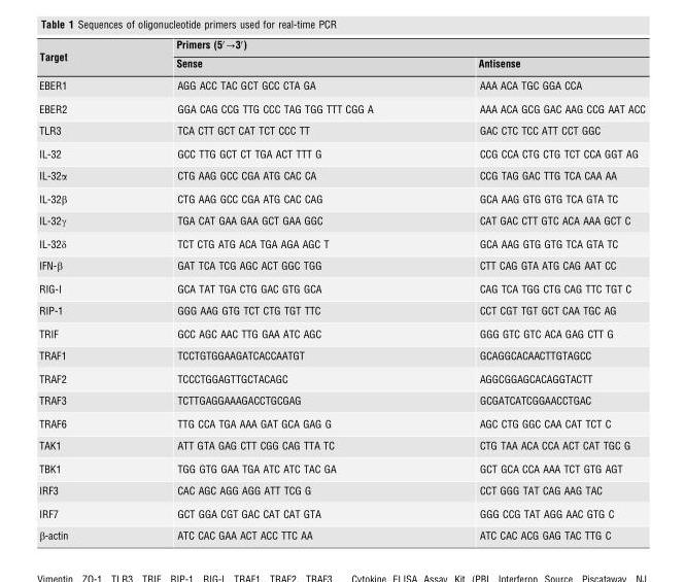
<table><thead><tr><td rowspan="2">Target</td><td colspan="2">Primers (5′→3′)</td></tr><tr><td>Sense</td><td>Antisense</td></tr></thead><tbody><tr><td>EBER1</td><td>AGG ACC TAC GCT GCC CTA GA</td><td>AAA ACA TGC GGA CCA</td></tr><tr><td>EBER2</td><td>GGA CAG CCG TTG CCC TAG TGG TTT CGG A</td><td>AAA ACA GCG GAC AAG CCG AAT ACC</td></tr><tr><td>TLR3</td><td>TCA CTT GCT CAT TCT CCC TT</td><td>GAC CTC TCC ATT CCT GGC</td></tr><tr><td>IL-32</td><td>GCC TTG GCT CT TGA ACT TTT G</td><td>CCG CCA CTG CTG TCT CCA GGT AG</td></tr><tr><td>IL-32α</td><td>CTG AAG GCC CGA ATG CAC CA</td><td>CCG TAG GAC TTG TCA CAA AA</td></tr><tr><td>IL-32β</td><td>CTG AAG GCC CGA ATG CAC CAG</td><td>GCA AAG GTG GTG TCA GTA TC</td></tr><tr><td>IL-32γ</td><td>TGA CAT GAA GAA GCT GAA GGC</td><td>CAT GAC CTT GTC ACA AAA GCT C</td></tr><tr><td>IL-32δ</td><td>TCT CTG ATG ACA TGA AGA AGC T</td><td>GCA AAG GTG GTG TCA GTA TC</td></tr><tr><td>IFN-β</td><td>GAT TCA TCG AGC ACT GGC TGG</td><td>CTT CAG GTA ATG CAG AAT CC</td></tr><tr><td>RIG-I</td><td>GCA TAT TGA CTG GAC GTG GCA</td><td>CAG TCA TGG CTG CAG TTC TGT C</td></tr><tr><td>RIP-1</td><td>GGG AAG GTG TCT CTG TGT TTC</td><td>CCT CGT TGT GCT CAA TGC AG</td></tr><tr><td>TRIF</td><td>GCC AGC AAC TTG GAA ATC AGC</td><td>GGG GTC GTC ACA GAG CTT G</td></tr><tr><td>TRAF1</td><td>TCCTGTGGAAGATCACCAATGT</td><td>GCAGGCACAACTTGTAGCC</td></tr><tr><td>TRAF2</td><td>TCCCTGGAGTTGCTACAGC</td><td>AGGCGGAGCACAGGTACTT</td></tr><tr><td>TRAF3</td><td>TCTTGAGGAAAGACCTGCGAG</td><td>GCGATCATCGGAACCTGAC</td></tr><tr><td>TRAF6</td><td>TTG CCA TGA AAA GAT GCA GAG G</td><td>AGC CTG GGC CAA CAT TCT C</td></tr><tr><td>TAK1</td><td>ATT GTA GAG CTT CGG CAG TTA TC</td><td>CTG TAA ACA CCA ACT CAT TGC G</td></tr><tr><td>TBK1</td><td>TGG GTG GAA TGA ATC ATC TAC GA</td><td>GCT GCA CCA AAA TCT GTG AGT</td></tr><tr><td>IRF3</td><td>CAC AGC AGG AGG ATT TCG G</td><td>CCT GGG TAT CAG AAG TAC</td></tr><tr><td>IRF7</td><td>GCT GGA CGT GAC CAT CAT GTA</td><td>GGG CCG TAT AGG AAC GTG C</td></tr><tr><td>β-actin</td><td>ATC CAC GAA ACT ACC TTC AA</td><td>ATC CAC ACG GAG TAC TTG C</td></tr></tbody></table>